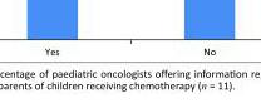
<table><tbody><tr><td>Yes</td><td>No</td></tr></tbody></table>